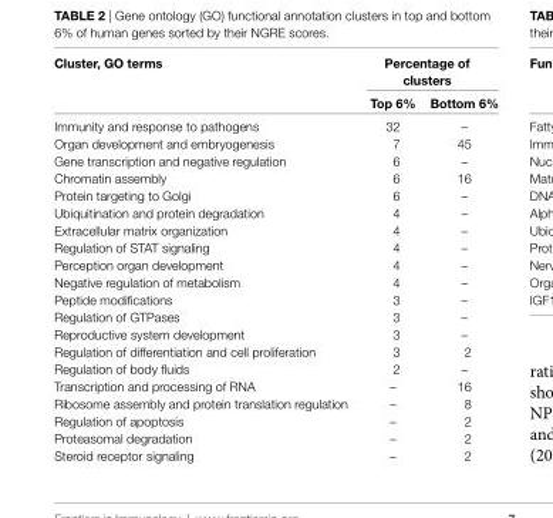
<table><thead><tr><td rowspan="2">cluster, gO terms</td><td colspan="2">Percentage of clusters</td></tr><tr><td>Top 6%</td><td>Bottom 6%</td></tr></thead><tbody><tr><td>Immunity and response to pathogens</td><td>32</td><td>–</td></tr><tr><td>Organ development and embryogenesis</td><td>7</td><td>45</td></tr><tr><td>Gene transcription and negative regulation</td><td>6</td><td>–</td></tr><tr><td>Chromatin assembly</td><td>6</td><td>16</td></tr><tr><td>Protein targeting to Golgi</td><td>6</td><td>–</td></tr><tr><td>Ubiquitination and protein degradation</td><td>4</td><td>–</td></tr><tr><td>Extracellular matrix organization</td><td>4</td><td>–</td></tr><tr><td>Regulation of STAT signaling</td><td>4</td><td>–</td></tr><tr><td>Perception organ development</td><td>4</td><td>–</td></tr><tr><td>Negative regulation of metabolism</td><td>4</td><td>–</td></tr><tr><td>Peptide modifications</td><td>3</td><td>–</td></tr><tr><td>Regulation of GTPases</td><td>3</td><td>–</td></tr><tr><td>Reproductive system development</td><td>3</td><td>–</td></tr><tr><td>Regulation of differentiation and cell proliferation</td><td>3</td><td>2</td></tr><tr><td>Regulation of body fluids</td><td>2</td><td>–</td></tr><tr><td>Transcription and processing of RNA</td><td>–</td><td>16</td></tr><tr><td>Ribosome assembly and protein translation regulation</td><td>–</td><td>8</td></tr><tr><td>Regulation of apoptosis</td><td>–</td><td>2</td></tr><tr><td>Proteasomal degradation</td><td>–</td><td>2</td></tr><tr><td>Steroid receptor signaling</td><td>–</td><td>2</td></tr></tbody></table>